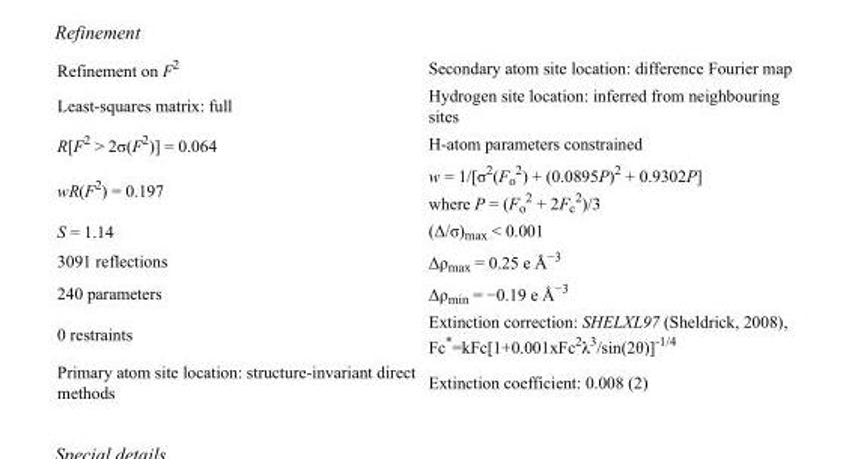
<table><tbody><tr><td>Refinement on F<sup>2</sup></td><td>Secondary atom site location: difference Fourier map</td></tr><tr><td>Least-squares matrix: full</td><td>Hydrogen site location: inferred from neighbouring sites</td></tr><tr><td>R[F<sup>2</sup> &gt; 2σ(F<sup>2</sup>)] = 0.064</td><td>H-atom parameters constrained</td></tr><tr><td>wR(F<sup>2</sup>) = 0.197</td><td>w = 1/[σ<sup>2</sup>(F<sub>o</sub> <sup>2</sup>) + (0.0895P)<sup>2</sup> + 0.9302P] where P = (F<sub>o</sub> <sup>2</sup> + 2F<sub>c</sub> <sup>2</sup>)/3</td></tr><tr><td>S = 1.14</td><td>(Δ/σ)<sub>max</sub> &lt; 0.001</td></tr><tr><td>3091 reflections</td><td>Δρ<sub>max</sub> = 0.25 e Å<sup>−3</sup></td></tr><tr><td>240 parameters</td><td>Δρ<sub>min</sub> = −0.19 e Å<sup>−3</sup></td></tr><tr><td>0 restraints</td><td>Extinction correction: SHELXL97 (Sheldrick, 2008), Fc*=kFc[1+0.001xFc<sup>2</sup>λ<sup>3</sup>/sin(2θ)]<sup>-1/4</sup></td></tr><tr><td>Primary atom site location: structure-invariant direct methods</td><td>Extinction coefficient: 0.008 (2)</td></tr></tbody></table>